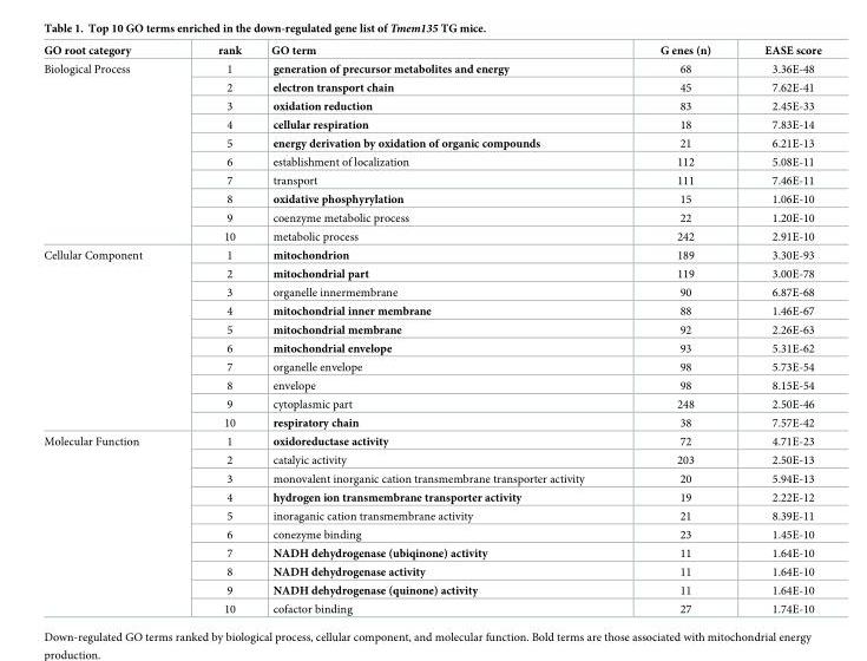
<table><thead><tr><td>GO root category</td><td>rank</td><td>GO term</td><td>G enes (n)</td><td>EASE score</td></tr></thead><tbody><tr><td rowspan="10">Biological Process</td><td>1</td><td>generation of precursor metabolites and energy</td><td>68</td><td>3.36E-48</td></tr><tr><td>2</td><td>electron transport chain</td><td>45</td><td>7.62E-41</td></tr><tr><td>3</td><td>oxidation reduction</td><td>83</td><td>2.45E-33</td></tr><tr><td>4</td><td>cellular respiration</td><td>18</td><td>7.83E-14</td></tr><tr><td>5</td><td>energy derivation by oxidation of organic compounds</td><td>21</td><td>6.21E-13</td></tr><tr><td>6</td><td>establishment of localization</td><td>112</td><td>5.08E-11</td></tr><tr><td>7</td><td>transport</td><td>111</td><td>7.46E-11</td></tr><tr><td>8</td><td>oxidative phosphyrylation</td><td>15</td><td>1.06E-10</td></tr><tr><td>9</td><td>coenzyme metabolic process</td><td>22</td><td>1.20E-10</td></tr><tr><td>10</td><td>metabolic process</td><td>242</td><td>2.91E-10</td></tr><tr><td rowspan="10">Cellular Component</td><td>1</td><td>mitochondrion</td><td>189</td><td>3.30E-93</td></tr><tr><td>2</td><td>mitochondrial part</td><td>119</td><td>3.00E-78</td></tr><tr><td>3</td><td>organelle innermembrane</td><td>90</td><td>6.87E-68</td></tr><tr><td>4</td><td>mitochondrial inner membrane</td><td>88</td><td>1.46E-67</td></tr><tr><td>5</td><td>mitochondrial membrane</td><td>92</td><td>2.26E-63</td></tr><tr><td>6</td><td>mitochondrial envelope</td><td>93</td><td>5.31E-62</td></tr><tr><td>7</td><td>organelle envelope</td><td>98</td><td>5.73E-54</td></tr><tr><td>8</td><td>envelope</td><td>98</td><td>8.15E-54</td></tr><tr><td>9</td><td>cytoplasmic part</td><td>248</td><td>2.50E-46</td></tr><tr><td>10</td><td>respiratory chain</td><td>38</td><td>7.57E-42</td></tr><tr><td rowspan="10">Molecular Function</td><td>1</td><td>oxidoreductase activity</td><td>72</td><td>4.71E-23</td></tr><tr><td>2</td><td>catalyic activity</td><td>203</td><td>2.50E-13</td></tr><tr><td>3</td><td>monovalent inorganic cation transmembrane transporter activity</td><td>20</td><td>5.94E-13</td></tr><tr><td>4</td><td>hydrogen ion transmembrane transporter activity</td><td>19</td><td>2.22E-12</td></tr><tr><td>5</td><td>inoraganic cation transmembrane activity</td><td>21</td><td>8.39E-11</td></tr><tr><td>6</td><td>conezyme binding</td><td>23</td><td>1.45E-10</td></tr><tr><td>7</td><td>NADH dehydrogenase (ubiqinone) activity</td><td>11</td><td>1.64E-10</td></tr><tr><td>8</td><td>NADH dehydrogenase activity</td><td>11</td><td>1.64E-10</td></tr><tr><td>9</td><td>NADH dehydrogenase (quinone) activity</td><td>11</td><td>1.64E-10</td></tr><tr><td>10</td><td>cofactor binding</td><td>27</td><td>1.74E-10</td></tr></tbody></table>